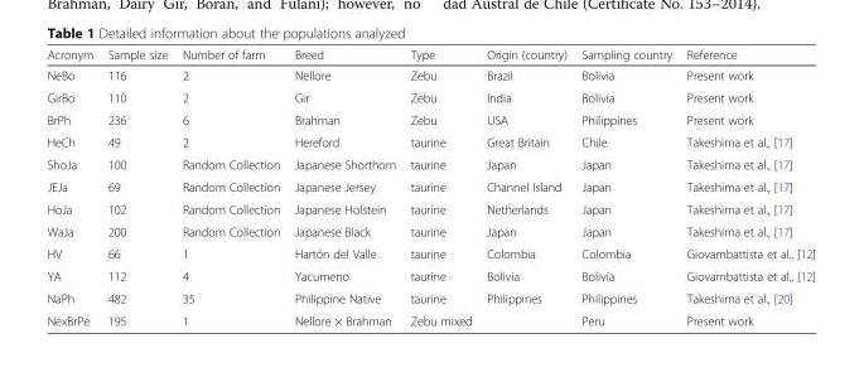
<table><thead><tr><td>Acronym</td><td>Sample size</td><td>Number of farm</td><td>Breed</td><td>Type</td><td>Origin (country)</td><td>Sampling country</td><td>Reference</td></tr></thead><tbody><tr><td>NeBo</td><td>116</td><td>2</td><td>Nellore</td><td>Zebu</td><td>Brazil</td><td>Bolivia</td><td>Present work</td></tr><tr><td>GirBo</td><td>110</td><td>2</td><td>Gir</td><td>Zebu</td><td>India</td><td>Bolivia</td><td>Present work</td></tr><tr><td>BrPh</td><td>236</td><td>6</td><td>Brahman</td><td>Zebu</td><td>USA</td><td>Philippines</td><td>Present work</td></tr><tr><td>HeCh</td><td>49</td><td>2</td><td>Hereford</td><td>taurine</td><td>Great Britain</td><td>Chile</td><td>Takeshima et al., [17]</td></tr><tr><td>ShoJa</td><td>100</td><td>Random Collection</td><td>Japanese Shorthorn</td><td>taurine</td><td>Japan</td><td>Japan</td><td>Takeshima et al., [17]</td></tr><tr><td>JEJa</td><td>69</td><td>Random Collection</td><td>Japanese Jersey</td><td>taurine</td><td>Channel Island</td><td>Japan</td><td>Takeshima et al., [17]</td></tr><tr><td>HoJa</td><td>102</td><td>Random Collection</td><td>Japanese Holstein</td><td>taurine</td><td>Netherlands</td><td>Japan</td><td>Takeshima et al., [17]</td></tr><tr><td>WaJa</td><td>200</td><td>Random Collection</td><td>Japanese Black</td><td>taurine</td><td>Japan</td><td>Japan</td><td>Takeshima et al., [17]</td></tr><tr><td>HV</td><td>66</td><td>1</td><td>Hartón del Valle</td><td>taurine</td><td>Colombia</td><td>Colombia</td><td>Giovambattista et al., [12]</td></tr><tr><td>YA</td><td>112</td><td>4</td><td>Yacumeno</td><td>taurine</td><td>Bolivia</td><td>Bolivia</td><td>Giovambattista et al., [12]</td></tr><tr><td>NaPh</td><td>482</td><td>35</td><td>Philippine Native</td><td>taurine</td><td>Philippines</td><td>Philippines</td><td>Takeshima et al., [20]</td></tr><tr><td>NexBrPe</td><td>195</td><td>1</td><td>Nellore × Brahman</td><td>Zebu mixed</td><td></td><td>Peru</td><td>Present work</td></tr></tbody></table>